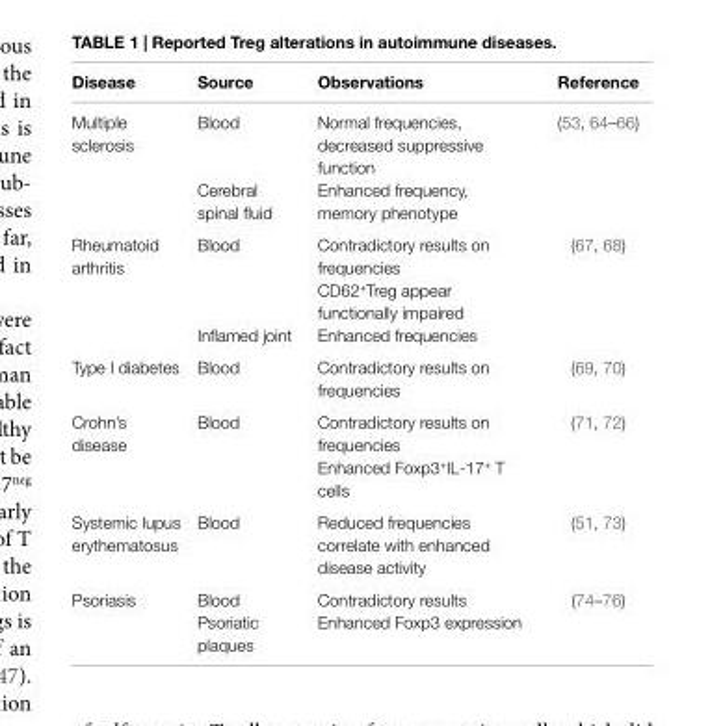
<table><thead><tr><td>Disease</td><td>Source</td><td>Observations</td><td>Reference</td></tr></thead><tbody><tr><td rowspan="2">Multiple sclerosis</td><td>Blood</td><td>Normal frequencies, decreased suppressive function</td><td>(53, 64–66)</td></tr><tr><td>Cerebral spinal fluid</td><td>Enhanced frequency, memory phenotype</td><td></td></tr><tr><td rowspan="3">Rheumatoid arthritis</td><td>Blood</td><td>Contradictory results on frequencies</td><td>(67, 68)</td></tr><tr><td></td><td>CD62<sup>+</sup>Treg appear functionally impaired</td><td></td></tr><tr><td>Inflamed joint</td><td>Enhanced frequencies</td><td></td></tr><tr><td>Type I diabetes</td><td>Blood</td><td>Contradictory results on frequencies</td><td>(69, 70)</td></tr><tr><td rowspan="2">Crohn’s disease</td><td>Blood</td><td>Contradictory results on frequencies</td><td>(71, 72)</td></tr><tr><td></td><td>Enhanced Foxp3<sup>+</sup>IL-17<sup>+</sup> T cells</td><td></td></tr><tr><td>Systemic lupus erythematosus</td><td>Blood</td><td>Reduced frequencies correlate with enhanced disease activity</td><td>(51, 73)</td></tr><tr><td rowspan="2">Psoriasis</td><td>Blood</td><td>Contradictory results</td><td>(74–76)</td></tr><tr><td>Psoriatic plaques</td><td>Enhanced Foxp3 expression</td><td></td></tr></tbody></table>